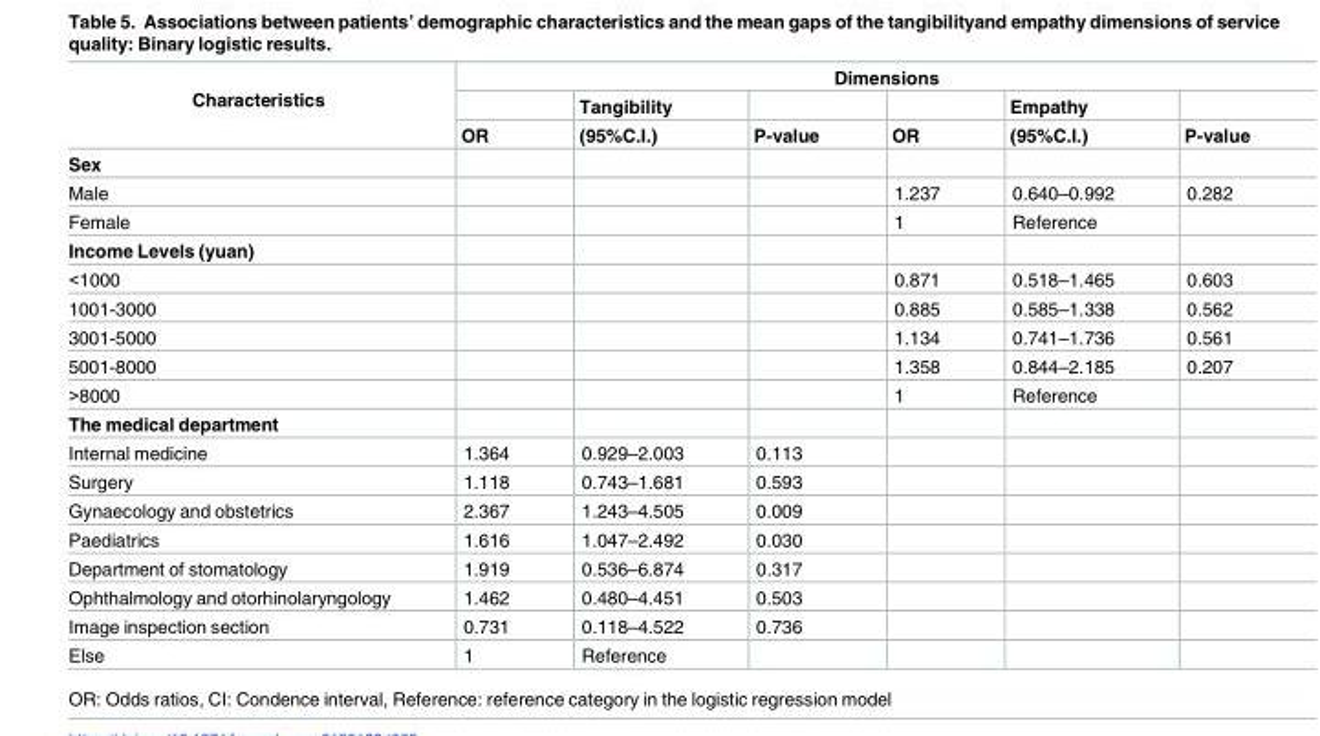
<table><thead><tr><td rowspan="3">Characteristics</td><td colspan="6">Dimensions</td></tr><tr><td rowspan="2">OR</td><td rowspan="2">Tangibility (95%C.I.)</td><td rowspan="2">P-value</td><td rowspan="2">OR</td><td rowspan="2">Empathy (95%C.I.)</td><td rowspan="2">P-value</td></tr><tr></tr></thead><tbody><tr><td colspan="7">Sex</td></tr><tr><td>Male</td><td></td><td></td><td></td><td>1.237</td><td>0.640–0.992</td><td>0.282</td></tr><tr><td>Female</td><td></td><td></td><td></td><td>1</td><td>Reference</td><td></td></tr><tr><td colspan="7">Income Levels (yuan)</td></tr><tr><td>&lt;1000</td><td></td><td></td><td></td><td>0.871</td><td>0.518–1.465</td><td>0.603</td></tr><tr><td>1001-3000</td><td></td><td></td><td></td><td>0.885</td><td>0.585–1.338</td><td>0.562</td></tr><tr><td>3001-5000</td><td></td><td></td><td></td><td>1.134</td><td>0.741–1.736</td><td>0.561</td></tr><tr><td>5001-8000</td><td></td><td></td><td></td><td>1.358</td><td>0.844–2.185</td><td>0.207</td></tr><tr><td>&gt;8000</td><td></td><td></td><td></td><td>1</td><td>Reference</td><td></td></tr><tr><td colspan="7">The medical department</td></tr><tr><td>Internal medicine</td><td>1.364</td><td>0.929–2.003</td><td>0.113</td><td></td><td></td><td></td></tr><tr><td>Surgery</td><td>1.118</td><td>0.743–1.681</td><td>0.593</td><td></td><td></td><td></td></tr><tr><td>Gynaecology and obstetrics</td><td>2.367</td><td>1.243–4.505</td><td>0.009</td><td></td><td></td><td></td></tr><tr><td>Paediatrics</td><td>1.616</td><td>1.047–2.492</td><td>0.030</td><td></td><td></td><td></td></tr><tr><td>Department of stomatology</td><td>1.919</td><td>0.536–6.874</td><td>0.317</td><td></td><td></td><td></td></tr><tr><td>Ophthalmology and otorhinolaryngology</td><td>1.462</td><td>0.480–4.451</td><td>0.503</td><td></td><td></td><td></td></tr><tr><td>Image inspection section</td><td>0.731</td><td>0.118–4.522</td><td>0.736</td><td></td><td></td><td></td></tr><tr><td>Else</td><td>1</td><td>Reference</td><td></td><td></td><td></td><td></td></tr></tbody></table>